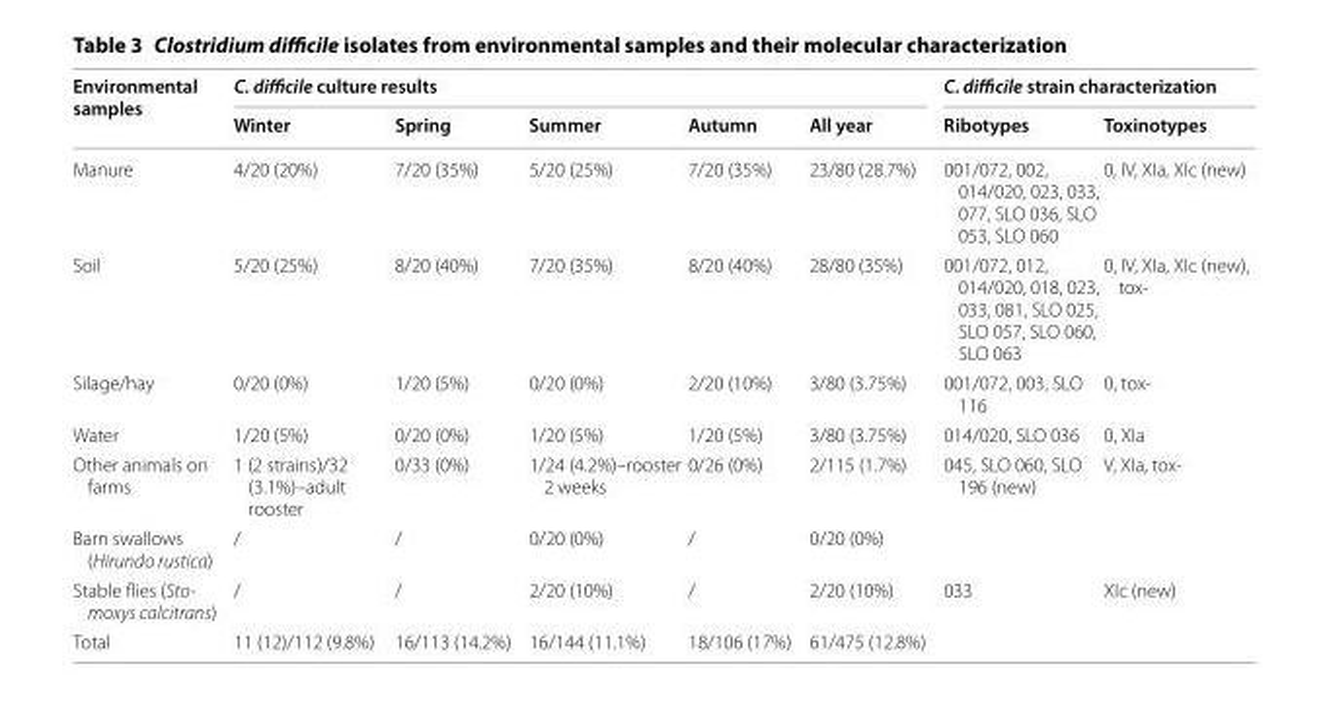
<table><thead><tr><td rowspan="2">Environmental samples</td><td colspan="5">C. difficile culture results</td><td colspan="2">C. difficile strain characterization</td></tr><tr><td>Winter</td><td>Spring</td><td>Summer</td><td>Autumn</td><td>All year</td><td>Ribotypes</td><td>Toxinotypes</td></tr></thead><tbody><tr><td>Manure</td><td>4/20 (20%)</td><td>7/20 (35%)</td><td>5/20 (25%)</td><td>7/20 (35%)</td><td>23/80 (28.7%)</td><td>001/072, 002, 014/020, 023, 033, 077, SLO 036, SLO 053, SLO 060</td><td>0, IV, XIa, XIc (new)</td></tr><tr><td>Soil</td><td>5/20 (25%)</td><td>8/20 (40%)</td><td>7/20 (35%)</td><td>8/20 (40%)</td><td>28/80 (35%)</td><td>001/072, 012, 014/020, 018, 023, 033, 081, SLO 025, SLO 057, SLO 060, SLO 063</td><td>0, IV, XIa, XIc (new), tox-</td></tr><tr><td>Silage/hay</td><td>0/20 (0%)</td><td>1/20 (5%)</td><td>0/20 (0%)</td><td>2/20 (10%)</td><td>3/80 (3.75%)</td><td>001/072, 003, SLO 116</td><td>0, tox-</td></tr><tr><td>Water</td><td>1/20 (5%)</td><td>0/20 (0%)</td><td>1/20 (5%)</td><td>1/20 (5%)</td><td>3/80 (3.75%)</td><td>014/020, SLO 036</td><td>0, XIa</td></tr><tr><td>Other animals on farms</td><td>1 (2 strains)/32 (3.1%)–adult rooster</td><td>0/33 (0%)</td><td>1/24 (4.2%)–rooster 2 weeks</td><td>0/26 (0%)</td><td>2/115 (1.7%)</td><td>045, SLO 060, SLO 196 (new)</td><td>V, XIa, tox-</td></tr><tr><td>Barn swallows (Hirundo rustica)</td><td>/</td><td>/</td><td>0/20 (0%)</td><td>/</td><td>0/20 (0%)</td><td></td><td></td></tr><tr><td>Stable flies (Sto- moxys calcitrans)</td><td>/</td><td>/</td><td>2/20 (10%)</td><td>/</td><td>2/20 (10%)</td><td>033</td><td>XIc (new)</td></tr><tr><td>Total</td><td>11 (12)/112 (9.8%)</td><td>16/113 (14.2%)</td><td>16/144 (11.1%)</td><td>18/106 (17%)</td><td>61/475 (12.8%)</td><td></td><td></td></tr></tbody></table>